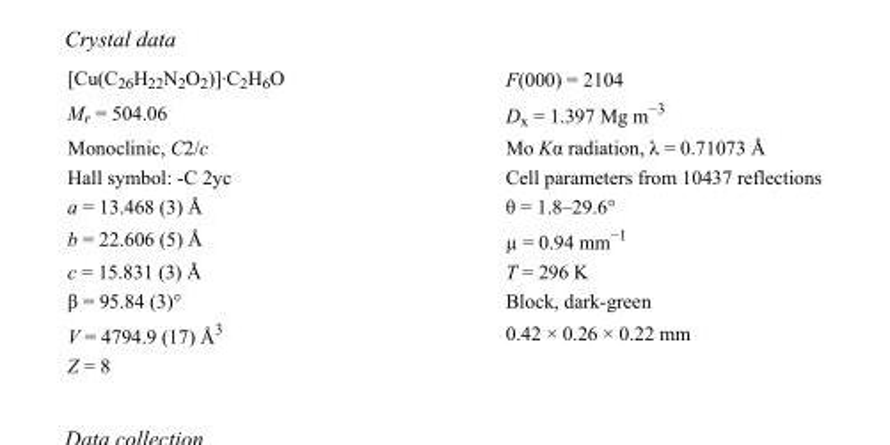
<table><tbody><tr><td>[Cu(C<sub>26</sub>H<sub>22</sub>N<sub>2</sub>O<sub>2</sub>)]·C<sub>2</sub>H<sub>6</sub>O</td><td>F(000) = 2104</td></tr><tr><td>M<sub>r</sub> = 504.06</td><td>D<sub>x</sub> = 1.397 Mg m<sup>−3</sup></td></tr><tr><td>Monoclinic, C2/c</td><td>Mo Kα radiation, λ = 0.71073 Å</td></tr><tr><td>Hall symbol: -C 2yc</td><td>Cell parameters from 10437 reflections</td></tr><tr><td>a = 13.468 (3) Å</td><td>θ = 1.8–29.6°</td></tr><tr><td>b = 22.606 (5) Å</td><td>µ = 0.94 mm<sup>−1</sup></td></tr><tr><td>c = 15.831 (3) Å</td><td>T = 296 K</td></tr><tr><td>β = 95.84 (3)°</td><td>Block, dark-green</td></tr><tr><td>V = 4794.9 (17) Å<sup>3</sup></td><td>0.42 × 0.26 × 0.22 mm</td></tr><tr><td>Z = 8</td><td></td></tr></tbody></table>